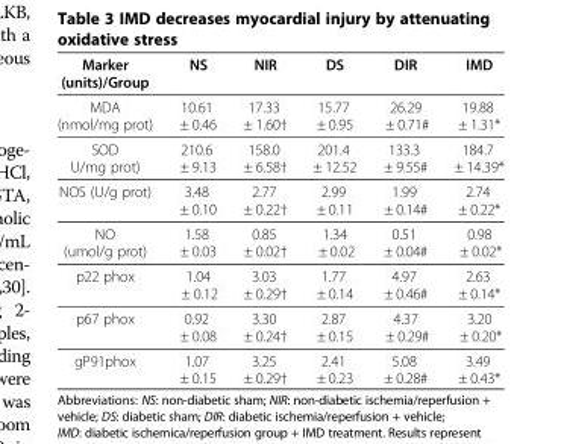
<table><thead><tr><td>Marker (units)/Group</td><td>NS</td><td>NIR</td><td>DS</td><td>DIR</td><td>IMD</td></tr></thead><tbody><tr><td>MDA (nmol/mg prot)</td><td>10.61 ± 0.46</td><td>17.33 ± 1.60†</td><td>15.77 ± 0.95</td><td>26.29 ± 0.71#</td><td>19.88 ± 1.31*</td></tr><tr><td>SOD U/mg prot)</td><td>210.6 ± 9.13</td><td>158.0 ± 6.58†</td><td>201.4 ± 12.52</td><td>133.3 ± 9.55#</td><td>184.7 ± 14.39*</td></tr><tr><td>NOS (U/g prot)</td><td>3.48 ± 0.10</td><td>2.77 ± 0.22†</td><td>2.99 ± 0.11</td><td>1.99 ± 0.14#</td><td>2.74 ± 0.22*</td></tr><tr><td>NO (umol/g prot)</td><td>1.58 ± 0.03</td><td>0.85 ± 0.02†</td><td>1.34 ± 0.02</td><td>0.51 ± 0.04#</td><td>0.98 ± 0.02*</td></tr><tr><td>p22 phox</td><td>1.04 ± 0.12</td><td>3.03 ± 0.29†</td><td>1.77 ± 0.14</td><td>4.97 ± 0.46#</td><td>2.63 ± 0.14*</td></tr><tr><td>p67 phox</td><td>0.92 ± 0.08</td><td>3.30 ± 0.24†</td><td>2.87 ± 0.15</td><td>4.37 ± 0.29#</td><td>3.20 ± 0.20*</td></tr><tr><td>gP91phox</td><td>1.07 ± 0.15</td><td>3.25 ± 0.29†</td><td>2.41 ± 0.23</td><td>5.08 ± 0.28#</td><td>3.49 ± 0.43*</td></tr></tbody></table>